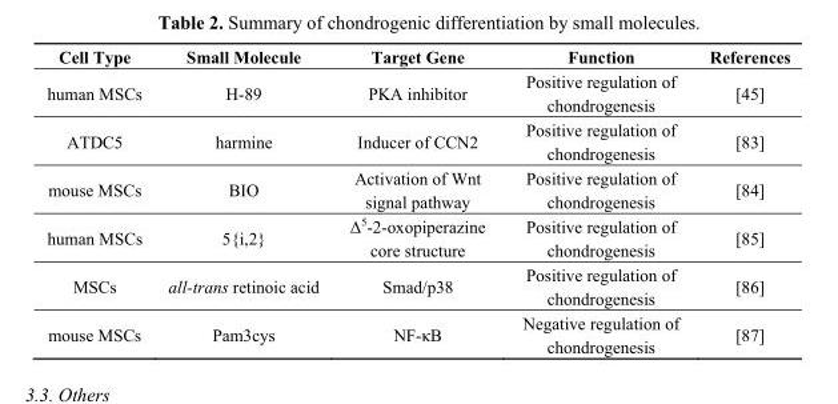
<table><thead><tr><td>Cell Type</td><td>Small Molecule</td><td>Target Gene</td><td>Function</td><td>References</td></tr></thead><tbody><tr><td>human MSCs</td><td>H-89</td><td>PKA inhibitor</td><td>Positive regulation of chondrogenesis</td><td>[45]</td></tr><tr><td>ATDC5</td><td>harmine</td><td>Inducer of CCN2</td><td>Positive regulation of chondrogenesis</td><td>[83]</td></tr><tr><td>mouse MSCs</td><td>BIO</td><td>Activation of Wnt signal pathway</td><td>Positive regulation of chondrogenesis</td><td>[84]</td></tr><tr><td>human MSCs</td><td>5{i,2}</td><td>Δ<sup>5</sup>-2-oxopiperazine core structure</td><td>Positive regulation of chondrogenesis</td><td>[85]</td></tr><tr><td>MSCs</td><td>all-trans retinoic acid</td><td>Smad/p38</td><td>Positive regulation of chondrogenesis</td><td>[86]</td></tr><tr><td>mouse MSCs</td><td>Pam3cys</td><td>NF-κB</td><td>Negative regulation of chondrogenesis</td><td>[87]</td></tr></tbody></table>